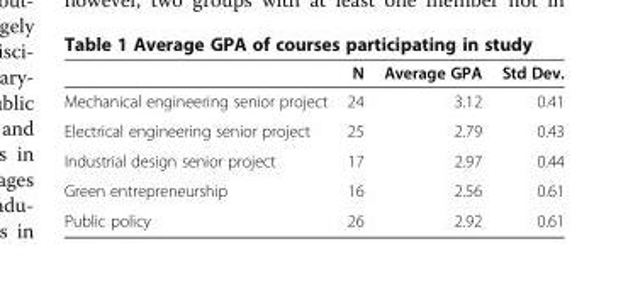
<table><thead><tr><td></td><td>N</td><td>Average GPA</td><td>Std Dev.</td></tr></thead><tbody><tr><td>Mechanical engineering senior project</td><td>24</td><td>3.12</td><td>0.41</td></tr><tr><td>Electrical engineering senior project</td><td>25</td><td>2.79</td><td>0.43</td></tr><tr><td>Industrial design senior project</td><td>17</td><td>2.97</td><td>0.44</td></tr><tr><td>Green entrepreneurship</td><td>16</td><td>2.56</td><td>0.61</td></tr><tr><td>Public policy</td><td>26</td><td>2.92</td><td>0.61</td></tr></tbody></table>